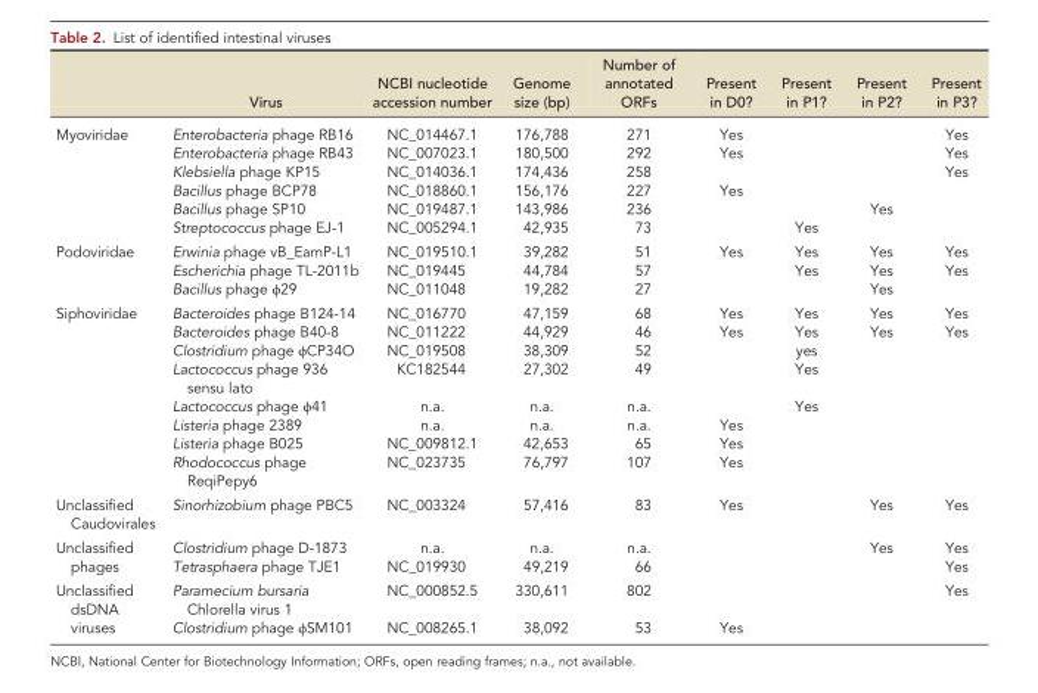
<table><thead><tr><td></td><td>Virus</td><td>NCBI nucleotide accession number</td><td>Genome size (bp)</td><td>Number of annotated ORFs</td><td>Present in D0?</td><td>Present in P1?</td><td>Present in P2?</td><td>Present in P3?</td></tr></thead><tbody><tr><td rowspan="6">Myoviridae</td><td>Enterobacteria phage RB16</td><td>NC_014467.1</td><td>176,788</td><td>271</td><td>Yes</td><td></td><td></td><td>Yes</td></tr><tr><td>Enterobacteria phage RB43</td><td>NC_007023.1</td><td>180,500</td><td>292</td><td>Yes</td><td></td><td></td><td>Yes</td></tr><tr><td>Klebsiella phage KP15</td><td>NC_014036.1</td><td>174,436</td><td>258</td><td></td><td></td><td></td><td>Yes</td></tr><tr><td>Bacillus phage BCP78</td><td>NC_018860.1</td><td>156,176</td><td>227</td><td>Yes</td><td></td><td></td><td></td></tr><tr><td>Bacillus phage SP10</td><td>NC_019487.1</td><td>143,986</td><td>236</td><td></td><td></td><td>Yes</td><td></td></tr><tr><td>Streptococcus phage EJ-1</td><td>NC_005294.1</td><td>42,935</td><td>73</td><td></td><td>Yes</td><td></td><td></td></tr><tr><td rowspan="3">Podoviridae</td><td>Erwinia phage vB_EamP-L1</td><td>NC_019510.1</td><td>39,282</td><td>51</td><td>Yes</td><td>Yes</td><td>Yes</td><td>Yes</td></tr><tr><td>Escherichia phage TL-2011b</td><td>NC_019445</td><td>44,784</td><td>57</td><td></td><td>Yes</td><td>Yes</td><td>Yes</td></tr><tr><td>Bacillus phage ϕ29</td><td>NC_011048</td><td>19,282</td><td>27</td><td></td><td></td><td>Yes</td><td></td></tr><tr><td rowspan="8">Siphoviridae</td><td>Bacteroides phage B124-14</td><td>NC_016770</td><td>47,159</td><td>68</td><td>Yes</td><td>Yes</td><td>Yes</td><td>Yes</td></tr><tr><td>Bacteroides phage B40-8</td><td>NC_011222</td><td>44,929</td><td>46</td><td>Yes</td><td>Yes</td><td>Yes</td><td>Yes</td></tr><tr><td>Clostridium phage ϕCP34O</td><td>NC_019508</td><td>38,309</td><td>52</td><td></td><td>yes</td><td></td><td></td></tr><tr><td>Lactococcus phage 936 sensu lato</td><td>KC182544</td><td>27,302</td><td>49</td><td></td><td>Yes</td><td></td><td></td></tr><tr><td>Lactococcus phage ϕ41</td><td>n.a.</td><td>n.a.</td><td>n.a.</td><td></td><td>Yes</td><td></td><td></td></tr><tr><td>Listeria phage 2389</td><td>n.a.</td><td>n.a.</td><td>n.a.</td><td>Yes</td><td></td><td></td><td></td></tr><tr><td>Listeria phage B025</td><td>NC_009812.1</td><td>42,653</td><td>65</td><td>Yes</td><td></td><td></td><td></td></tr><tr><td>Rhodococcus phage ReqiPepy6</td><td>NC_023735</td><td>76,797</td><td>107</td><td>Yes</td><td></td><td></td><td></td></tr><tr><td>Unclassified Caudovirales</td><td>Sinorhizobium phage PBC5</td><td>NC_003324</td><td>57,416</td><td>83</td><td>Yes</td><td></td><td>Yes</td><td>Yes</td></tr><tr><td rowspan="2">Unclassified phages</td><td>Clostridium phage D-1873</td><td>n.a.</td><td>n.a.</td><td>n.a.</td><td></td><td></td><td>Yes</td><td>Yes</td></tr><tr><td>Tetrasphaera phage TJE1</td><td>NC_019930</td><td>49,219</td><td>66</td><td></td><td></td><td></td><td>Yes</td></tr><tr><td rowspan="2">Unclassified dsDNA viruses</td><td>Paramecium bursaria Chlorella virus 1</td><td>NC_000852.5</td><td>330,611</td><td>802</td><td></td><td></td><td></td><td>Yes</td></tr><tr><td>Clostridium phage ϕSM101</td><td>NC_008265.1</td><td>38,092</td><td>53</td><td>Yes</td><td></td><td></td><td></td></tr></tbody></table>